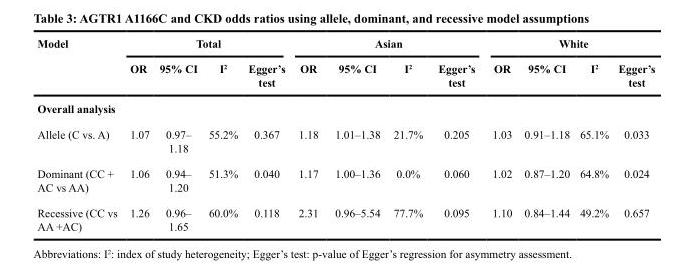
<table><thead><tr><td rowspan="2">Model</td><td colspan="4">Total</td><td colspan="4">Asian</td><td colspan="4">White</td></tr><tr><td>OR</td><td>95% CI</td><td>I<sup>2</sup></td><td>Egger’s test</td><td>OR</td><td>95% CI</td><td>I<sup>2</sup></td><td>Egger’s test</td><td>OR</td><td>95% CI</td><td>I<sup>2</sup></td><td>Egger’s test</td></tr></thead><tbody><tr><td colspan="13">Overall analysis</td></tr><tr><td>Allele (C vs. A)</td><td>1.07</td><td>0.97– 1.18</td><td>55.2%</td><td>0.367</td><td>1.18</td><td>1.01–1.38</td><td>21.7%</td><td>0.205</td><td>1.03</td><td>0.91–1.18</td><td>65.1%</td><td>0.033</td></tr><tr><td>Dominant (CC + AC vs AA)</td><td>1.06</td><td>0.94– 1.20</td><td>51.3%</td><td>0.040</td><td>1.17</td><td>1.00–1.36</td><td>0.0%</td><td>0.060</td><td>1.02</td><td>0.87–1.20</td><td>64.8%</td><td>0.024</td></tr><tr><td>Recessive (CC vs AA +AC)</td><td>1.26</td><td>0.96– 1.65</td><td>60.0%</td><td>0.118</td><td>2.31</td><td>0.96–5.54</td><td>77.7%</td><td>0.095</td><td>1.10</td><td>0.84–1.44</td><td>49.2%</td><td>0.657</td></tr></tbody></table>